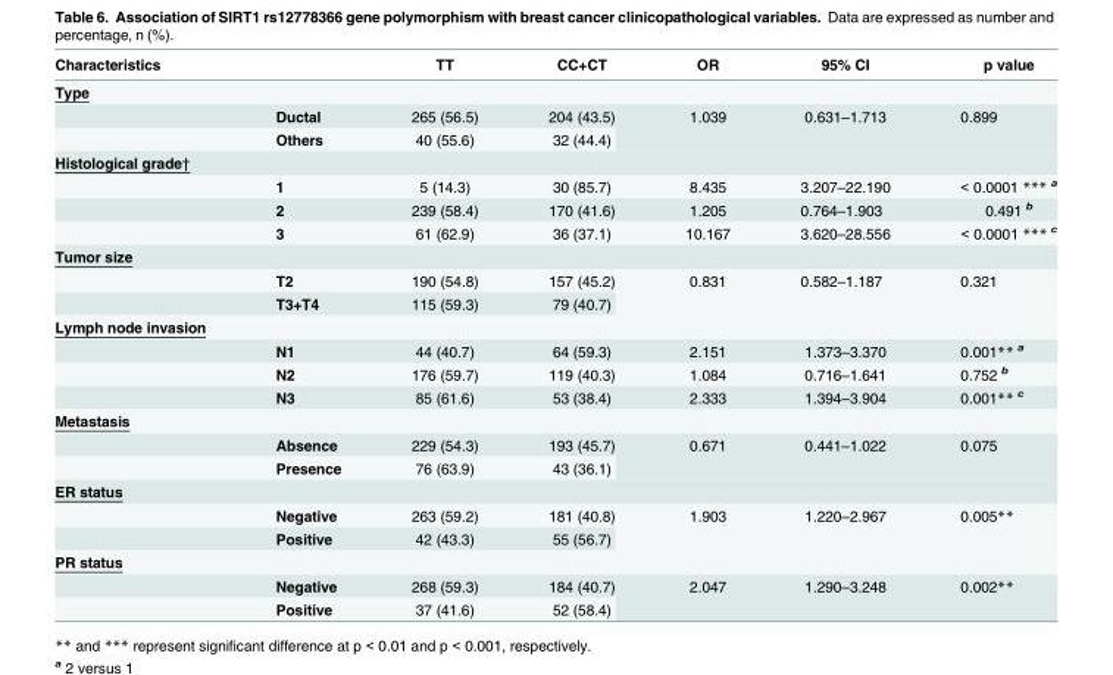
<table><thead><tr><td>Characteristics</td><td></td><td>TT</td><td>CC+CT</td><td>OR</td><td>95% CI</td><td>p value</td></tr></thead><tbody><tr><td colspan="7">Type</td></tr><tr><td></td><td>Ductal</td><td>265 (56.5)</td><td>204 (43.5)</td><td rowspan="2">1.039</td><td rowspan="2">0.631–1.713</td><td rowspan="2">0.899</td></tr><tr><td></td><td>Others</td><td>40 (55.6)</td><td>32 (44.4)</td></tr><tr><td colspan="7">Histological grade†</td></tr><tr><td></td><td>1</td><td>5 (14.3)</td><td>30 (85.7)</td><td>8.435</td><td>3.207–22.190</td><td>&lt; 0.0001 *** <sup>a</sup></td></tr><tr><td></td><td>2</td><td>239 (58.4)</td><td>170 (41.6)</td><td>1.205</td><td>0.764–1.903</td><td>0.491 <sup>b</sup></td></tr><tr><td></td><td>3</td><td>61 (62.9)</td><td>36 (37.1)</td><td>10.167</td><td>3.620–28.556</td><td>&lt; 0.0001 *** <sup>c</sup></td></tr><tr><td colspan="7">Tumor size</td></tr><tr><td></td><td>T2</td><td>190 (54.8)</td><td>157 (45.2)</td><td rowspan="2">0.831</td><td rowspan="2">0.582–1.187</td><td rowspan="2">0.321</td></tr><tr><td></td><td>T3+T4</td><td>115 (59.3)</td><td>79 (40.7)</td></tr><tr><td colspan="7">Lymph node invasion</td></tr><tr><td></td><td>N1</td><td>44 (40.7)</td><td>64 (59.3)</td><td>2.151</td><td>1.373–3.370</td><td>0.001** <sup>a</sup></td></tr><tr><td></td><td>N2</td><td>176 (59.7)</td><td>119 (40.3)</td><td>1.084</td><td>0.716–1.641</td><td>0.752 <sup>b</sup></td></tr><tr><td></td><td>N3</td><td>85 (61.6)</td><td>53 (38.4)</td><td>2.333</td><td>1.394–3.904</td><td>0.001** <sup>c</sup></td></tr><tr><td colspan="7">Metastasis</td></tr><tr><td></td><td>Absence</td><td>229 (54.3)</td><td>193 (45.7)</td><td rowspan="2">0.671</td><td rowspan="2">0.441–1.022</td><td rowspan="2">0.075</td></tr><tr><td></td><td>Presence</td><td>76 (63.9)</td><td>43 (36.1)</td></tr><tr><td colspan="7">ER status</td></tr><tr><td></td><td>Negative</td><td>263 (59.2)</td><td>181 (40.8)</td><td rowspan="2">1.903</td><td rowspan="2">1.220–2.967</td><td rowspan="2">0.005**</td></tr><tr><td></td><td>Positive</td><td>42 (43.3)</td><td>55 (56.7)</td></tr><tr><td colspan="7">PR status</td></tr><tr><td></td><td>Negative</td><td>268 (59.3)</td><td>184 (40.7)</td><td rowspan="2">2.047</td><td rowspan="2">1.290–3.248</td><td rowspan="2">0.002**</td></tr><tr><td></td><td>Positive</td><td>37 (41.6)</td><td>52 (58.4)</td></tr></tbody></table>